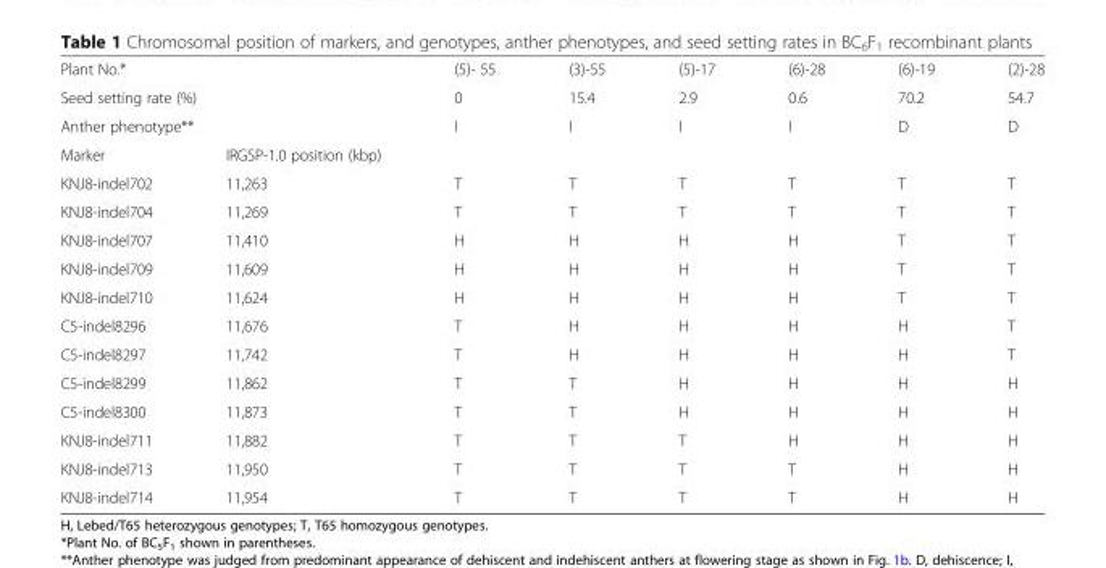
<table><tbody><tr><td colspan="2">Plant No.*</td><td>(5)- 55</td><td>(3)-55</td><td>(5)-17</td><td>(6)-28</td><td>(6)-19</td><td>(2)-28</td></tr><tr><td colspan="2">Seed setting rate (%)</td><td>0</td><td>15.4</td><td>2.9</td><td>0.6</td><td>70.2</td><td>54.7</td></tr><tr><td colspan="2">Anther phenotype**</td><td>I</td><td>I</td><td>I</td><td>I</td><td>D</td><td>D</td></tr><tr><td>Marker</td><td>IRGSP-1.0 position (kbp)</td><td></td><td></td><td></td><td></td><td></td><td></td></tr><tr><td>KNJ8-indel702</td><td>11,263</td><td>T</td><td>T</td><td>T</td><td>T</td><td>T</td><td>T</td></tr><tr><td>KNJ8-indel704</td><td>11,269</td><td>T</td><td>T</td><td>T</td><td>T</td><td>T</td><td>T</td></tr><tr><td>KNJ8-indel707</td><td>11,410</td><td>H</td><td>H</td><td>H</td><td>H</td><td>T</td><td>T</td></tr><tr><td>KNJ8-indel709</td><td>11,609</td><td>H</td><td>H</td><td>H</td><td>H</td><td>T</td><td>T</td></tr><tr><td>KNJ8-indel710</td><td>11,624</td><td>H</td><td>H</td><td>H</td><td>H</td><td>T</td><td>T</td></tr><tr><td>C5-indel8296</td><td>11,676</td><td>T</td><td>H</td><td>H</td><td>H</td><td>H</td><td>T</td></tr><tr><td>C5-indel8297</td><td>11,742</td><td>T</td><td>H</td><td>H</td><td>H</td><td>H</td><td>T</td></tr><tr><td>C5-indel8299</td><td>11,862</td><td>T</td><td>T</td><td>H</td><td>H</td><td>H</td><td>H</td></tr><tr><td>C5-indel8300</td><td>11,873</td><td>T</td><td>T</td><td>H</td><td>H</td><td>H</td><td>H</td></tr><tr><td>KNJ8-indel711</td><td>11,882</td><td>T</td><td>T</td><td>T</td><td>H</td><td>H</td><td>H</td></tr><tr><td>KNJ8-indel713</td><td>11,950</td><td>T</td><td>T</td><td>T</td><td>T</td><td>H</td><td>H</td></tr><tr><td>KNJ8-indel714</td><td>11,954</td><td>T</td><td>T</td><td>T</td><td>T</td><td>H</td><td>H</td></tr></tbody></table>